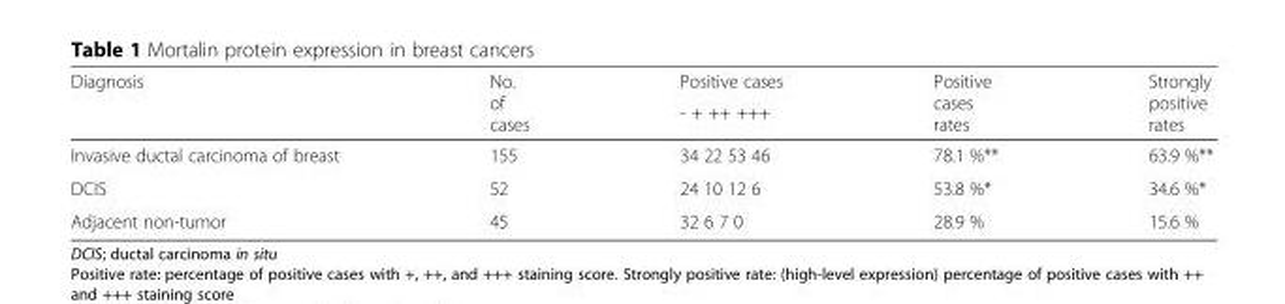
<table><thead><tr><td rowspan="2">Diagnosis</td><td rowspan="2">No. of cases</td><td rowspan="2">Positive cases - + ++ +++</td><td rowspan="2">Positive cases rates</td><td rowspan="2">Strongly positive rates</td></tr><tr></tr></thead><tbody><tr><td>Invasive ductal carcinoma of breast</td><td>155</td><td>34 22 53 46</td><td>78.1 %**</td><td>63.9 %**</td></tr><tr><td>DCIS</td><td>52</td><td>24 10 12 6</td><td>53.8 %*</td><td>34.6 %*</td></tr><tr><td>Adjacent non-tumor</td><td>45</td><td>32 6 7 0</td><td>28.9 %</td><td>15.6 %</td></tr></tbody></table>